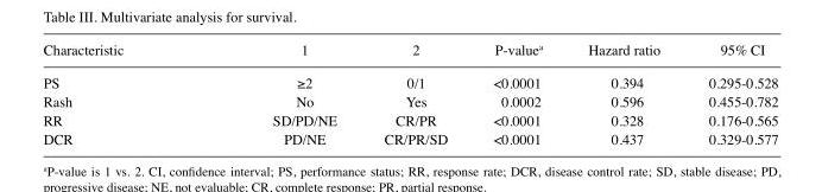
<table><thead><tr><td>Characteristic</td><td>1</td><td>2</td><td>P-value<sup>a</sup></td><td>Hazard ratio</td><td>95% CI</td></tr></thead><tbody><tr><td>PS</td><td>≥2</td><td>0/1</td><td>&lt;0.0001</td><td>0.394</td><td>0.295‑0.528</td></tr><tr><td>Rash</td><td>No</td><td>Yes</td><td>0.0002</td><td>0.596</td><td>0.455-0.782</td></tr><tr><td>RR</td><td>SD/PD/NE</td><td>CR/PR</td><td>&lt;0.0001</td><td>0.328</td><td>0.176-0.565</td></tr><tr><td>DCR</td><td>PD/NE</td><td>CR/PR/SD</td><td>&lt;0.0001</td><td>0.437</td><td>0.329-0.577</td></tr></tbody></table>